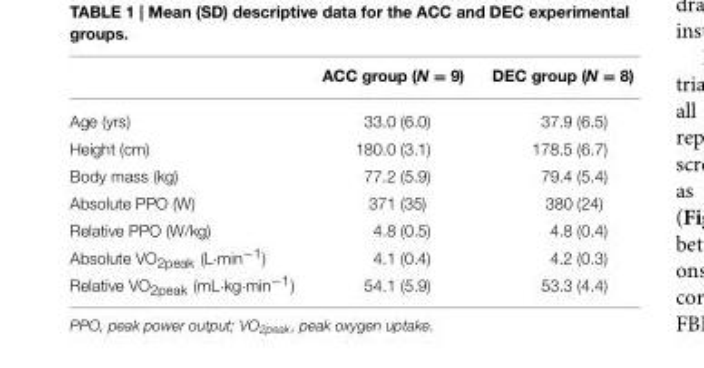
<table><thead><tr><td></td><td>ACC group (N = 9)</td><td>DEC group (N = 8)</td></tr></thead><tbody><tr><td>Age (yrs)</td><td>33.0 (6.0)</td><td>37.9 (6.5)</td></tr><tr><td>Height (cm)</td><td>180.0 (3.1)</td><td>178.5 (6.7)</td></tr><tr><td>Body mass (kg)</td><td>77.2 (5.9)</td><td>79.4 (5.4)</td></tr><tr><td>Absolute PPO (W)</td><td>371 (35)</td><td>380 (24)</td></tr><tr><td>Relative PPO (W/kg)</td><td>4.8 (0.5)</td><td>4.8 (0.4)</td></tr><tr><td>Absolute VO<sub>2peak</sub> (L·min<sup>−1</sup>)</td><td>4.1 (0.4)</td><td>4.2 (0.3)</td></tr><tr><td>Relative VO<sub>2peak</sub> (mL·kg·min<sup>−1</sup>)</td><td>54.1 (5.9)</td><td>53.3 (4.4)</td></tr></tbody></table>